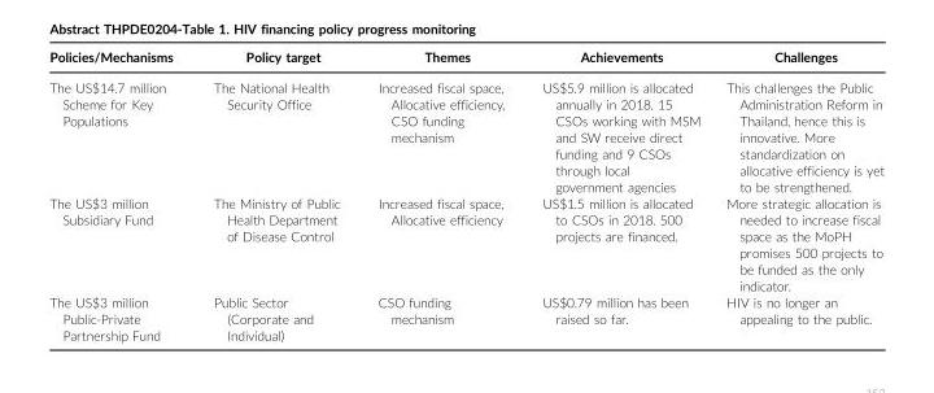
<table><thead><tr><td>Policies/Mechanisms</td><td>Policy target</td><td>Themes</td><td>Achievements</td><td>Challenges</td></tr></thead><tbody><tr><td>The US$14.7 million Scheme for Key Populations</td><td>The National Health Security Office</td><td>Increased fiscal space, Allocative efficiency, CSO funding mechanism</td><td>US$5.9 million is allocated annually in 2018. 15 CSOs working with MSM and SW receive direct funding and 9 CSOs through local government agencies</td><td>This challenges the Public Administration Reform in Thailand, hence this is innovative. More standardization on allocative efficiency is yet to be strengthened.</td></tr><tr><td>The US$3 million Subsidiary Fund</td><td>The Ministry of Public Health Department of Disease Control</td><td>Increased fiscal space, Allocative efficiency</td><td>US$1.5 million is allocated to CSOs in 2018. 500 projects are financed.</td><td>More strategic allocation is needed to increase fiscal space as the MoPH promises 500 projects to be funded as the only indicator.</td></tr><tr><td>The US$3 million Public-Private Partnership Fund</td><td>Public Sector (Corporate and Individual)</td><td>CSO funding mechanism</td><td>US$0.79 million has been raised so far.</td><td>HIV is no longer an appealing to the public.</td></tr></tbody></table>